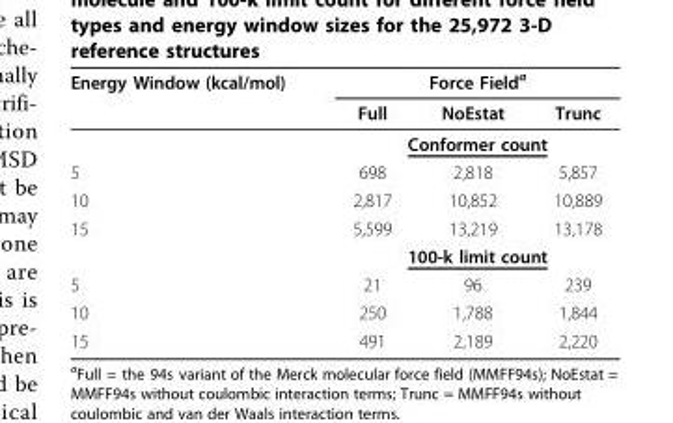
<table><thead><tr><td rowspan="2">Energy Window (kcal/mol)</td><td colspan="3">Force Field<sup>a</sup></td></tr><tr><td>Full</td><td>NoEstat</td><td>Trunc</td></tr></thead><tbody><tr><td></td><td colspan="3">Conformer count</td></tr><tr><td>5</td><td>698</td><td>2,818</td><td>5,857</td></tr><tr><td>10</td><td>2,817</td><td>10,852</td><td>10,889</td></tr><tr><td rowspan="2">15</td><td>5,599</td><td>13,219</td><td>13,178</td></tr><tr><td colspan="3">100-k limit count</td></tr><tr><td>5</td><td>21</td><td>96</td><td>239</td></tr><tr><td>10</td><td>250</td><td>1,788</td><td>1,844</td></tr><tr><td>15</td><td>491</td><td>2,189</td><td>2,220</td></tr></tbody></table>